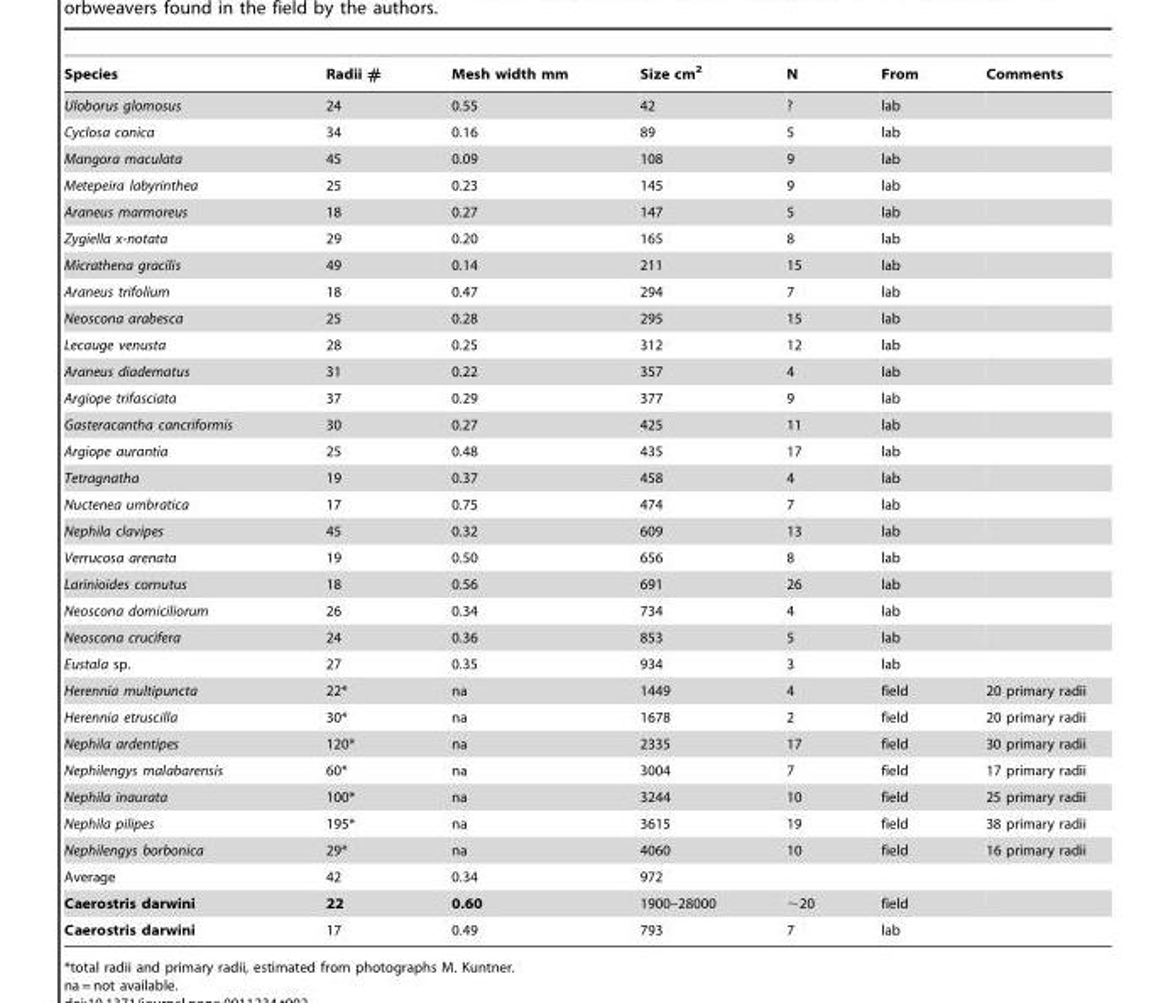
<table><thead><tr><td>Species</td><td>Radii #</td><td>Mesh width mm</td><td>Size cm<sup>2</sup></td><td>N</td><td>From</td><td>Comments</td></tr></thead><tbody><tr><td>Uloborus glomosus</td><td>24</td><td>0.55</td><td>42</td><td>?</td><td>lab</td><td></td></tr><tr><td>Cyclosa conica</td><td>34</td><td>0.16</td><td>89</td><td>5</td><td>lab</td><td></td></tr><tr><td>Mangora maculata</td><td>45</td><td>0.09</td><td>108</td><td>9</td><td>lab</td><td></td></tr><tr><td>Metepeira labyrinthea</td><td>25</td><td>0.23</td><td>145</td><td>9</td><td>lab</td><td></td></tr><tr><td>Araneus marmoreus</td><td>18</td><td>0.27</td><td>147</td><td>5</td><td>lab</td><td></td></tr><tr><td>Zygiella x-notata</td><td>29</td><td>0.20</td><td>165</td><td>8</td><td>lab</td><td></td></tr><tr><td>Micrathena gracilis</td><td>49</td><td>0.14</td><td>211</td><td>15</td><td>lab</td><td></td></tr><tr><td>Araneus trifolium</td><td>18</td><td>0.47</td><td>294</td><td>7</td><td>lab</td><td></td></tr><tr><td>Neoscona arabesca</td><td>25</td><td>0.28</td><td>295</td><td>15</td><td>lab</td><td></td></tr><tr><td>Lecauge venusta</td><td>28</td><td>0.25</td><td>312</td><td>12</td><td>lab</td><td></td></tr><tr><td>Araneus diadematus</td><td>31</td><td>0.22</td><td>357</td><td>4</td><td>lab</td><td></td></tr><tr><td>Argiope trifasciata</td><td>37</td><td>0.29</td><td>377</td><td>9</td><td>lab</td><td></td></tr><tr><td>Gasteracantha cancriformis</td><td>30</td><td>0.27</td><td>425</td><td>11</td><td>lab</td><td></td></tr><tr><td>Argiope aurantia</td><td>25</td><td>0.48</td><td>435</td><td>17</td><td>lab</td><td></td></tr><tr><td>Tetragnatha</td><td>19</td><td>0.37</td><td>458</td><td>4</td><td>lab</td><td></td></tr><tr><td>Nuctenea umbratica</td><td>17</td><td>0.75</td><td>474</td><td>7</td><td>lab</td><td></td></tr><tr><td>Nephila clavipes</td><td>45</td><td>0.32</td><td>609</td><td>13</td><td>lab</td><td></td></tr><tr><td>Verrucosa arenata</td><td>19</td><td>0.50</td><td>656</td><td>8</td><td>lab</td><td></td></tr><tr><td>Larinioides cornutus</td><td>18</td><td>0.56</td><td>691</td><td>26</td><td>lab</td><td></td></tr><tr><td>Neoscona domiciliorum</td><td>26</td><td>0.34</td><td>734</td><td>4</td><td>lab</td><td></td></tr><tr><td>Neoscona crucifera</td><td>24</td><td>0.36</td><td>853</td><td>5</td><td>lab</td><td></td></tr><tr><td>Eustala sp.</td><td>27</td><td>0.35</td><td>934</td><td>3</td><td>lab</td><td></td></tr><tr><td>Herennia multipuncta</td><td>22*</td><td>na</td><td>1449</td><td>4</td><td>field</td><td>20 primary radii</td></tr><tr><td>Herennia etruscilla</td><td>30*</td><td>na</td><td>1678</td><td>2</td><td>field</td><td>20 primary radii</td></tr><tr><td>Nephila ardentipes</td><td>120*</td><td>na</td><td>2335</td><td>17</td><td>field</td><td>30 primary radii</td></tr><tr><td>Nephilengys malabarensis</td><td>60*</td><td>na</td><td>3004</td><td>7</td><td>field</td><td>17 primary radii</td></tr><tr><td>Nephila inaurata</td><td>100*</td><td>na</td><td>3244</td><td>10</td><td>field</td><td>25 primary radii</td></tr><tr><td>Nephila pilipes</td><td>195*</td><td>na</td><td>3615</td><td>19</td><td>field</td><td>38 primary radii</td></tr><tr><td>Nephilengys borbonica</td><td>29*</td><td>na</td><td>4060</td><td>10</td><td>field</td><td>16 primary radii</td></tr><tr><td>Average</td><td>42</td><td>0.34</td><td>972</td><td></td><td></td><td></td></tr><tr><td>Caerostris darwini</td><td>22</td><td>0.60</td><td>1900–28000</td><td>∼20</td><td>field</td><td></td></tr><tr><td>Caerostris darwini</td><td>17</td><td>0.49</td><td>793</td><td>7</td><td>lab</td><td></td></tr></tbody></table>